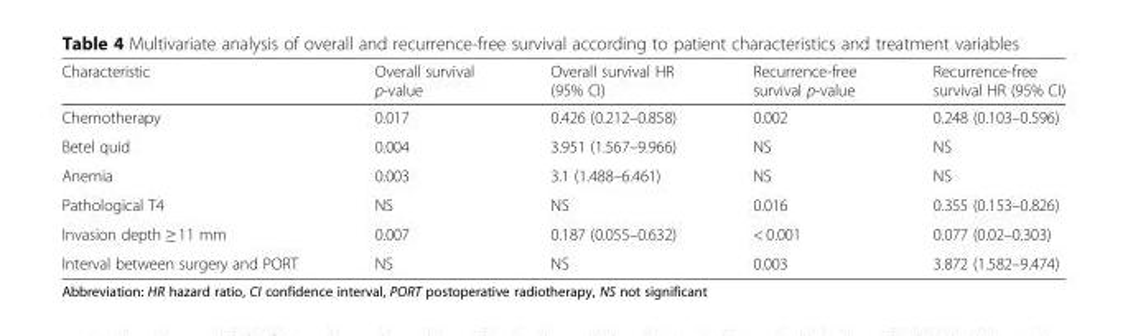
<table><thead><tr><td>Characteristic</td><td>Overall survival p-value</td><td>Overall survival HR (95% CI)</td><td>Recurrence-free survival p-value</td><td>Recurrence-free survival HR (95% CI)</td></tr></thead><tbody><tr><td>Chemotherapy</td><td>0.017</td><td>0.426 (0.212–0.858)</td><td>0.002</td><td>0.248 (0.103–0.596)</td></tr><tr><td>Betel quid</td><td>0.004</td><td>3.951 (1.567–9.966)</td><td>NS</td><td>NS</td></tr><tr><td>Anemia</td><td>0.003</td><td>3.1 (1.488–6.461)</td><td>NS</td><td>NS</td></tr><tr><td>Pathological T4</td><td>NS</td><td>NS</td><td>0.016</td><td>0.355 (0.153–0.826)</td></tr><tr><td>Invasion depth ≥ 11 mm</td><td>0.007</td><td>0.187 (0.055–0.632)</td><td>&lt; 0.001</td><td>0.077 (0.02–0.303)</td></tr><tr><td>Interval between surgery and PORT</td><td>NS</td><td>NS</td><td>0.003</td><td>3.872 (1.582–9.474)</td></tr></tbody></table>